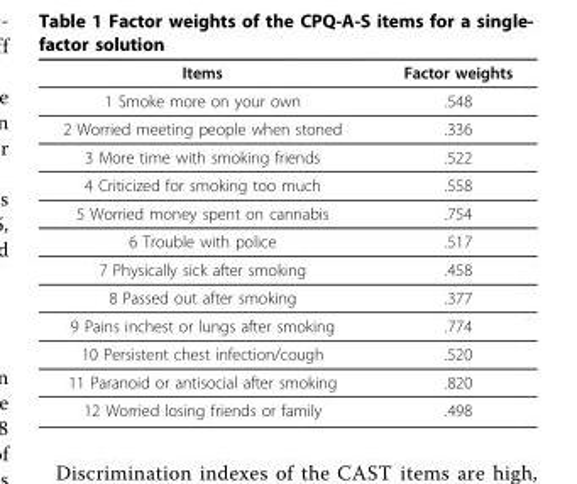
<table><thead><tr><td>Items</td><td>Factor weights</td></tr></thead><tbody><tr><td>1 Smoke more on your own</td><td>.548</td></tr><tr><td>2 Worried meeting people when stoned</td><td>.336</td></tr><tr><td>3 More time with smoking friends</td><td>.522</td></tr><tr><td>4 Criticized for smoking too much</td><td>.558</td></tr><tr><td>5 Worried money spent on cannabis</td><td>.754</td></tr><tr><td>6 Trouble with police</td><td>.517</td></tr><tr><td>7 Physically sick after smoking</td><td>.458</td></tr><tr><td>8 Passed out after smoking</td><td>.377</td></tr><tr><td>9 Pains inchest or lungs after smoking</td><td>.774</td></tr><tr><td>10 Persistent chest infection/cough</td><td>.520</td></tr><tr><td>11 Paranoid or antisocial after smoking</td><td>.820</td></tr><tr><td>12 Worried losing friends or family</td><td>.498</td></tr></tbody></table>